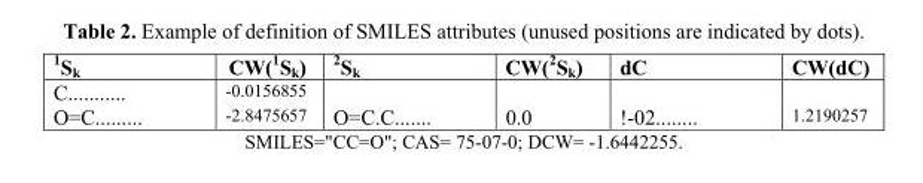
<table><thead><tr><td><sup>1</sup>S<sub>k</sub></td><td>CW(<sup>1</sup>S<sub>k</sub>)</td><td><sup>2</sup>S<sub>k</sub></td><td>CW(<sup>2</sup>S<sub>k</sub>)</td><td>dC</td><td>CW(dC)</td></tr></thead><tbody><tr><td>C...........</td><td>-0.0156855</td><td></td><td></td><td></td><td></td></tr><tr><td>O=C.........</td><td>-2.8475657</td><td>O=C.C.......</td><td>0.0</td><td>!-02........</td><td>1.2190257</td></tr></tbody></table>